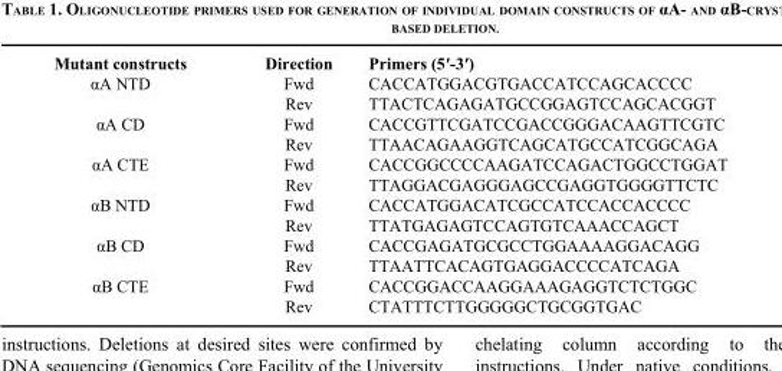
<table><thead><tr><td>Mutant constructs</td><td>Direction</td><td>Primers (5′-3′)</td></tr></thead><tbody><tr><td rowspan="2">αA NTD</td><td>Fwd</td><td>CACCATGGACGTGACCATCCAGCACCCC</td></tr><tr><td>Rev</td><td>TTACTCAGAGATGCCGGAGTCCAGCACGGT</td></tr><tr><td rowspan="2">αA CD</td><td>Fwd</td><td>CACCGTTCGATCCGACCGGGACAAGTTCGTC</td></tr><tr><td>Rev</td><td>TTAACAGAAGGTCAGCATGCCATCGGCAGA</td></tr><tr><td rowspan="2">αA CTE</td><td>Fwd</td><td>CACCGGCCCCAAGATCCAGACTGGCCTGGAT</td></tr><tr><td>Rev</td><td>TTAGGACGAGGGAGCCGAGGTGGGGTTCTC</td></tr><tr><td rowspan="2">αB NTD</td><td>Fwd</td><td>CACCATGGACATCGCCATCCACCACCCC</td></tr><tr><td>Rev</td><td>TTATGAGAGTCCAGTGTCAAACCAGCT</td></tr><tr><td rowspan="2">αB CD</td><td>Fwd</td><td>CACCGAGATGCGCCTGGAAAAGGACAGG</td></tr><tr><td>Rev</td><td>TTAATTCACAGTGAGGACCCCATCAGA</td></tr><tr><td rowspan="2">αB CTE</td><td>Fwd</td><td>CACCGGACCAAGGAAAGAGGTCTCTGGC</td></tr><tr><td>Rev</td><td>CTATTTCTTGGGGGCTGCGGTGAC</td></tr></tbody></table>